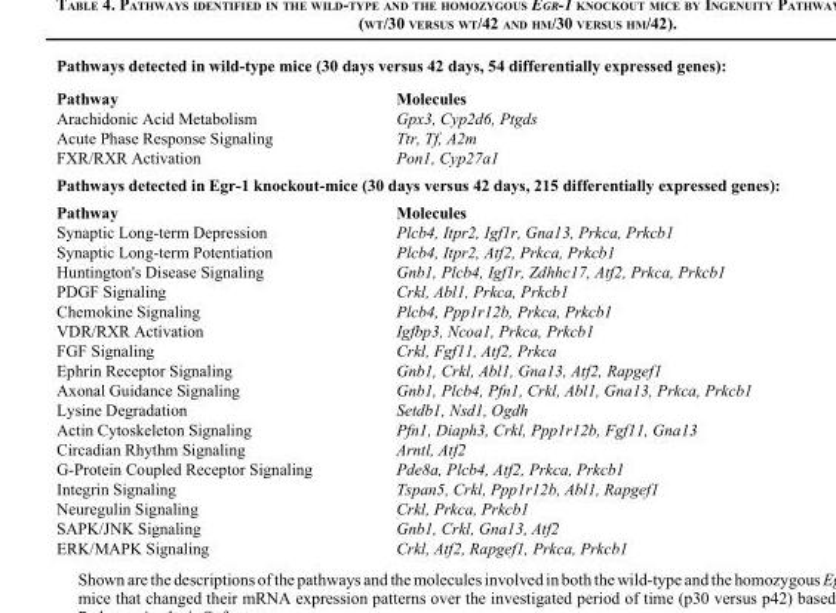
<table><thead><tr><td colspan="2">Pathways detected in wild-type mice (30 days versus 42 days, 54 differentially expressed genes):</td></tr><tr><td>Pathway</td><td>Molecules</td></tr></thead><tbody><tr><td>Arachidonic Acid Metabolism</td><td>Gpx3, Cyp2d6, Ptgds</td></tr><tr><td>Acute Phase Response Signaling</td><td>Ttr, Tf, A2m</td></tr><tr><td>FXR/RXR Activation</td><td>Pon1, Cyp27a1</td></tr><tr><td colspan="2">Pathways detected in Egr-1 knockout-mice (30 days versus 42 days, 215 differentially expressed genes):</td></tr><tr><td>Pathway</td><td>Molecules</td></tr><tr><td>Synaptic Long-term Depression</td><td>Plcb4, Itpr2, Igf1r, Gna13, Prkca, Prkcb1</td></tr><tr><td>Synaptic Long-term Potentiation</td><td>Plcb4, Itpr2, Atf2, Prkca, Prkcb1</td></tr><tr><td>Huntington&#x27;s Disease Signaling</td><td>Gnb1, Plcb4, Igf1r, Zdhhc17, Atf2, Prkca, Prkcb1</td></tr><tr><td>PDGF Signaling</td><td>Crkl, Abl1, Prkca, Prkcb1</td></tr><tr><td>Chemokine Signaling</td><td>Plcb4, Ppp1r12b, Prkca, Prkcb1</td></tr><tr><td>VDR/RXR Activation</td><td>Igfbp3, Ncoa1, Prkca, Prkcb1</td></tr><tr><td>FGF Signaling</td><td>Crkl, Fgf11, Atf2, Prkca</td></tr><tr><td>Ephrin Receptor Signaling</td><td>Gnb1, Crkl, Abl1, Gna13, Atf2, Rapgef1</td></tr><tr><td>Axonal Guidance Signaling</td><td>Gnb1, Plcb4, Pfn1, Crkl, Abl1, Gna13, Prkca, Prkcb1</td></tr><tr><td>Lysine Degradation</td><td>Setdb1, Nsd1, Ogdh</td></tr><tr><td>Actin Cytoskeleton Signaling</td><td>Pfn1, Diaph3, Crkl, Ppp1r12b, Fgf11, Gna13</td></tr><tr><td>Circadian Rhythm Signaling</td><td>Arntl, Atf2</td></tr><tr><td>G-Protein Coupled Receptor Signaling</td><td>Pde8a, Plcb4, Atf2, Prkca, Prkcb1</td></tr><tr><td>Integrin Signaling</td><td>Tspan5, Crkl, Ppp1r12b, Abl1, Rapgef1</td></tr><tr><td>Neuregulin Signaling</td><td>Crkl, Prkca, Prkcb1</td></tr><tr><td>SAPK/JNK Signaling</td><td>Gnb1, Crkl, Gna13, Atf2</td></tr><tr><td>ERK/MAPK Signaling</td><td>Crkl, Atf2, Rapgef1, Prkca, Prkcb1</td></tr></tbody></table>